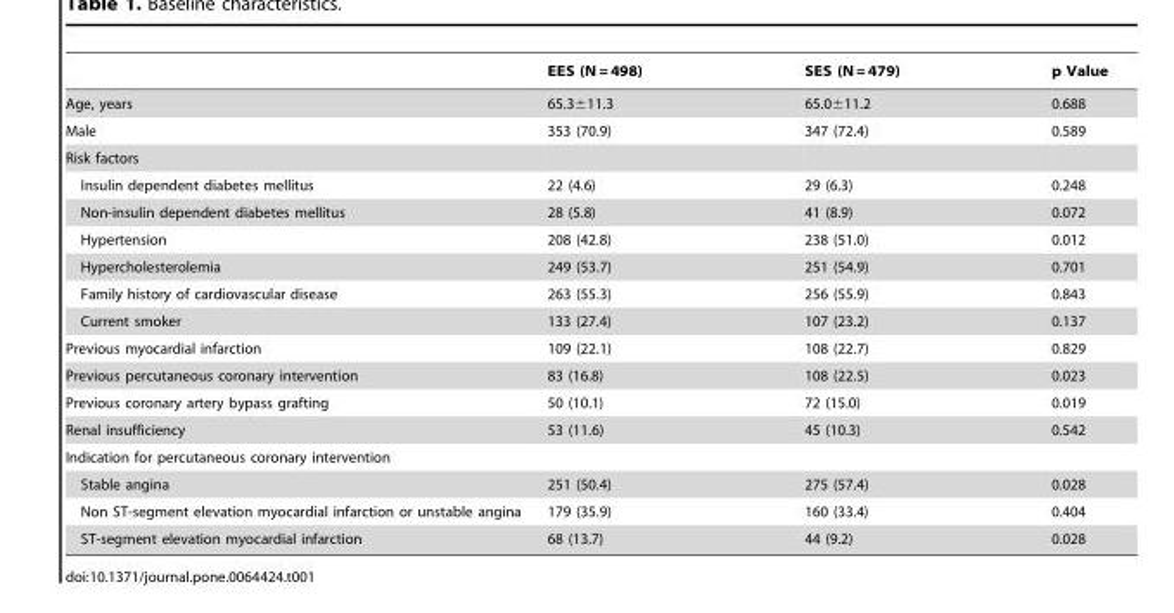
<table><thead><tr><td></td><td>EES (N = 498)</td><td>SES (N = 479)</td><td>p Value</td></tr></thead><tbody><tr><td>Age, years</td><td>65.3±11.3</td><td>65.0±11.2</td><td>0.688</td></tr><tr><td>Male</td><td>353 (70.9)</td><td>347 (72.4)</td><td>0.589</td></tr><tr><td colspan="4">Risk factors</td></tr><tr><td>Insulin dependent diabetes mellitus</td><td>22 (4.6)</td><td>29 (6.3)</td><td>0.248</td></tr><tr><td>Non-insulin dependent diabetes mellitus</td><td>28 (5.8)</td><td>41 (8.9)</td><td>0.072</td></tr><tr><td>Hypertension</td><td>208 (42.8)</td><td>238 (51.0)</td><td>0.012</td></tr><tr><td>Hypercholesterolemia</td><td>249 (53.7)</td><td>251 (54.9)</td><td>0.701</td></tr><tr><td>Family history of cardiovascular disease</td><td>263 (55.3)</td><td>256 (55.9)</td><td>0.843</td></tr><tr><td>Current smoker</td><td>133 (27.4)</td><td>107 (23.2)</td><td>0.137</td></tr><tr><td>Previous myocardial infarction</td><td>109 (22.1)</td><td>108 (22.7)</td><td>0.829</td></tr><tr><td>Previous percutaneous coronary intervention</td><td>83 (16.8)</td><td>108 (22.5)</td><td>0.023</td></tr><tr><td>Previous coronary artery bypass grafting</td><td>50 (10.1)</td><td>72 (15.0)</td><td>0.019</td></tr><tr><td>Renal insufficiency</td><td>53 (11.6)</td><td>45 (10.3)</td><td>0.542</td></tr><tr><td colspan="4">Indication for percutaneous coronary intervention</td></tr><tr><td>Stable angina</td><td>251 (50.4)</td><td>275 (57.4)</td><td>0.028</td></tr><tr><td>Non ST-segment elevation myocardial infarction or unstable angina</td><td>179 (35.9)</td><td>160 (33.4)</td><td>0.404</td></tr><tr><td>ST-segment elevation myocardial infarction</td><td>68 (13.7)</td><td>44 (9.2)</td><td>0.028</td></tr></tbody></table>